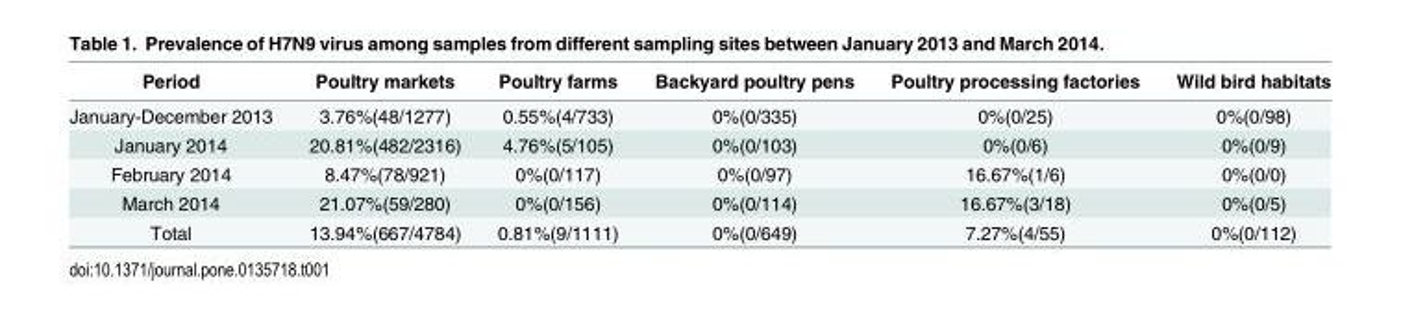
<table><thead><tr><td>Period</td><td>Poultry markets</td><td>Poultry farms</td><td>Backyard poultry pens</td><td>Poultry processing factories</td><td>Wild bird habitats</td></tr></thead><tbody><tr><td>January-December 2013</td><td>3.76%(48/1277)</td><td>0.55%(4/733)</td><td>0%(0/335)</td><td>0%(0/25)</td><td>0%(0/98)</td></tr><tr><td>January 2014</td><td>20.81%(482/2316)</td><td>4.76%(5/105)</td><td>0%(0/103)</td><td>0%(0/6)</td><td>0%(0/9)</td></tr><tr><td>February 2014</td><td>8.47%(78/921)</td><td>0%(0/117)</td><td>0%(0/97)</td><td>16.67%(1/6)</td><td>0%(0/0)</td></tr><tr><td>March 2014</td><td>21.07%(59/280)</td><td>0%(0/156)</td><td>0%(0/114)</td><td>16.67%(3/18)</td><td>0%(0/5)</td></tr><tr><td>Total</td><td>13.94%(667/4784)</td><td>0.81%(9/1111)</td><td>0%(0/649)</td><td>7.27%(4/55)</td><td>0%(0/112)</td></tr></tbody></table>